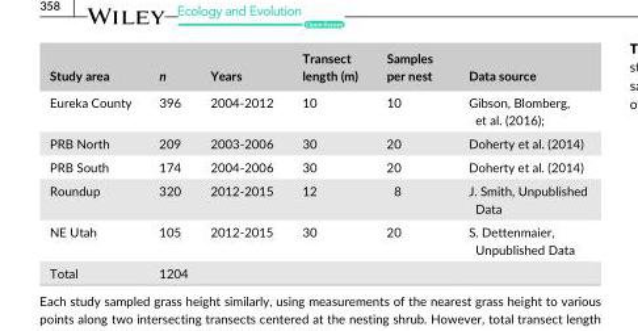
<table><thead><tr><td>Study area</td><td>n</td><td>Years</td><td>Transect length (m)</td><td>Samples per nest</td><td>Data source</td></tr></thead><tbody><tr><td>Eureka County</td><td>396</td><td>2004- 2012</td><td>10</td><td>10</td><td>Gibson, Blomberg, et al. (2016);</td></tr><tr><td>PRB North</td><td>209</td><td>2003- 2006</td><td>30</td><td>20</td><td>Doherty et al. (2014)</td></tr><tr><td>PRB South</td><td>174</td><td>2004- 2006</td><td>30</td><td>20</td><td>Doherty et al. (2014)</td></tr><tr><td>Roundup</td><td>320</td><td>2012- 2015</td><td>12</td><td>8</td><td>J. Smith, Unpublished Data</td></tr><tr><td>NE Utah</td><td>105</td><td>2012- 2015</td><td>30</td><td>20</td><td>S. Dettenmaier, Unpublished Data</td></tr><tr><td>Total</td><td>1204</td><td></td><td></td><td></td><td></td></tr></tbody></table>